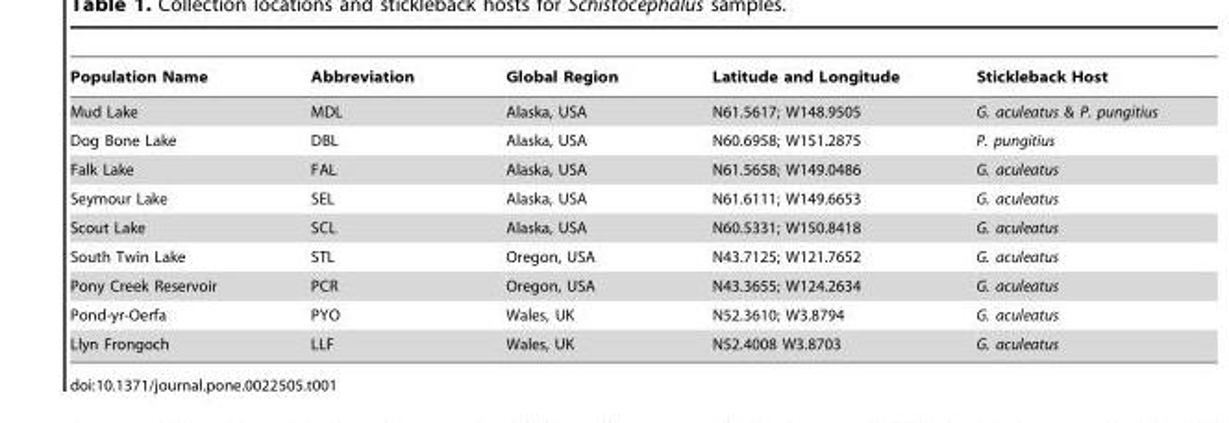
<table><thead><tr><td>Population Name</td><td>Abbreviation</td><td>Global Region</td><td>Latitude and Longitude</td><td>Stickleback Host</td></tr></thead><tbody><tr><td>Mud Lake</td><td>MDL</td><td>Alaska, USA</td><td>N61.5617; W148.9505</td><td>G. aculeatus &amp; P. pungitius</td></tr><tr><td>Dog Bone Lake</td><td>DBL</td><td>Alaska, USA</td><td>N60.6958; W151.2875</td><td>P. pungitius</td></tr><tr><td>Falk Lake</td><td>FAL</td><td>Alaska, USA</td><td>N61.5658; W149.0486</td><td>G. aculeatus</td></tr><tr><td>Seymour Lake</td><td>SEL</td><td>Alaska, USA</td><td>N61.6111; W149.6653</td><td>G. aculeatus</td></tr><tr><td>Scout Lake</td><td>SCL</td><td>Alaska, USA</td><td>N60.5331; W150.8418</td><td>G. aculeatus</td></tr><tr><td>South Twin Lake</td><td>STL</td><td>Oregon, USA</td><td>N43.7125; W121.7652</td><td>G. aculeatus</td></tr><tr><td>Pony Creek Reservoir</td><td>PCR</td><td>Oregon, USA</td><td>N43.3655; W124.2634</td><td>G. aculeatus</td></tr><tr><td>Pond-yr-Oerfa</td><td>PYO</td><td>Wales, UK</td><td>N52.3610; W3.8794</td><td>G. aculeatus</td></tr><tr><td>Llyn Frongoch</td><td>LLF</td><td>Wales, UK</td><td>N52.4008 W3.8703</td><td>G. aculeatus</td></tr></tbody></table>